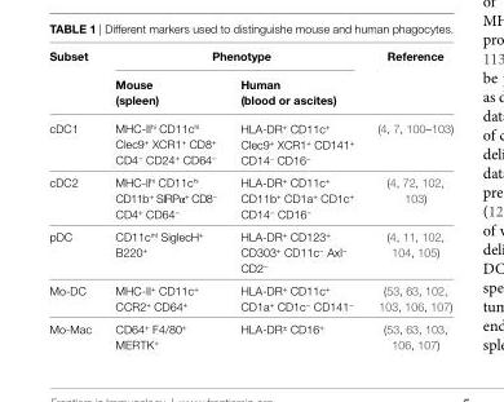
<table><thead><tr><td rowspan="2">Subset</td><td colspan="2">Phenotype</td><td rowspan="2">Reference</td></tr><tr><td>Mouse (spleen)</td><td>Human (blood or ascites)</td></tr></thead><tbody><tr><td>cDC1</td><td>MHC-IIhi CD11chi Clec9+ XCR1+ CD8+ CD4− CD24+ CD64−</td><td>HLA-DR+ CD11c+ Clec9+ XCR1+ CD141+ CD14− CD16−</td><td>(4, 7, 100–103)</td></tr><tr><td>cDC2</td><td>MHC-llhi CD11chi CD11b + SIRPα+ CD8− CD4+ CD64−</td><td>HLA-DR+ CD11c+ CD11b+ CD1a+ CD1c+ CD14− CD16−</td><td>(4, 72, 102, 103)</td></tr><tr><td>pDC</td><td>CD11cint SiglecH+ B220+</td><td>HLA-DR+ CD123+ CD303+ CD11c− Axl− CD2−</td><td>(4, 11, 102, 104, 105)</td></tr><tr><td>Mo-DC</td><td>MHC-II+ CD11c+ CCR2+ CD64+</td><td>HLA-DR+ CD11c+ CD1a+ CD1c− CD141−</td><td>(53, 63, 102, 103, 106, 107)</td></tr><tr><td>Mo-Mac</td><td>CD64+ F4/80+ MERTK+</td><td>HLA-DR± CD16+</td><td>(53, 63, 103, 106, 107)</td></tr></tbody></table>